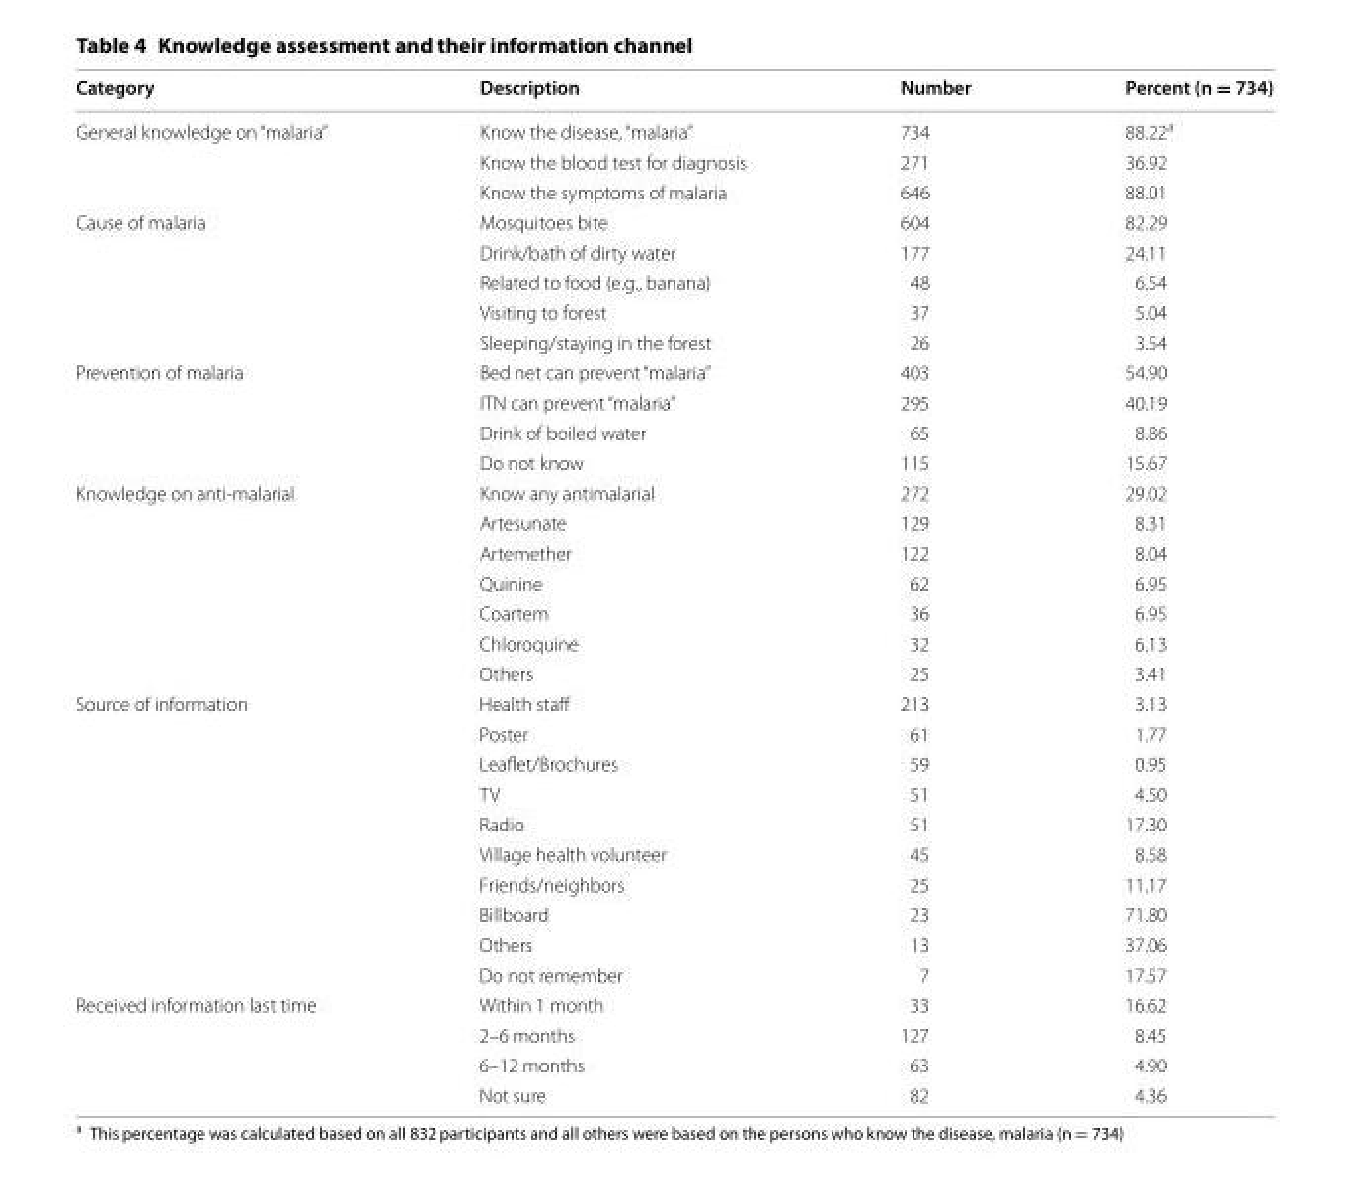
<table><thead><tr><td>Category</td><td>Description</td><td>Number</td><td>Percent (n = 734)</td></tr></thead><tbody><tr><td rowspan="3">General knowledge on “malaria”</td><td>Know the disease, “malaria”</td><td>734</td><td>88.22<sup>a</sup></td></tr><tr><td>Know the blood test for diagnosis</td><td>271</td><td>36.92</td></tr><tr><td>Know the symptoms of malaria</td><td>646</td><td>88.01</td></tr><tr><td rowspan="5">Cause of malaria</td><td>Mosquitoes bite</td><td>604</td><td>82.29</td></tr><tr><td>Drink/bath of dirty water</td><td>177</td><td>24.11</td></tr><tr><td>Related to food (e.g., banana)</td><td>48</td><td>6.54</td></tr><tr><td>Visiting to forest</td><td>37</td><td>5.04</td></tr><tr><td>Sleeping/staying in the forest</td><td>26</td><td>3.54</td></tr><tr><td rowspan="4">Prevention of malaria</td><td>Bed net can prevent “malaria”</td><td>403</td><td>54.90</td></tr><tr><td>ITN can prevent “malaria”</td><td>295</td><td>40.19</td></tr><tr><td>Drink of boiled water</td><td>65</td><td>8.86</td></tr><tr><td>Do not know</td><td>115</td><td>15.67</td></tr><tr><td rowspan="7">Knowledge on anti-malarial</td><td>Know any antimalarial</td><td>272</td><td>29.02</td></tr><tr><td>Artesunate</td><td>129</td><td>8.31</td></tr><tr><td>Artemether</td><td>122</td><td>8.04</td></tr><tr><td>Quinine</td><td>62</td><td>6.95</td></tr><tr><td>Coartem</td><td>36</td><td>6.95</td></tr><tr><td>Chloroquine</td><td>32</td><td>6.13</td></tr><tr><td>Others</td><td>25</td><td>3.41</td></tr><tr><td rowspan="10">Source of information</td><td>Health staff</td><td>213</td><td>3.13</td></tr><tr><td>Poster</td><td>61</td><td>1.77</td></tr><tr><td>Leaflet/Brochures</td><td>59</td><td>0.95</td></tr><tr><td>TV</td><td>51</td><td>4.50</td></tr><tr><td>Radio</td><td>51</td><td>17.30</td></tr><tr><td>Village health volunteer</td><td>45</td><td>8.58</td></tr><tr><td>Friends/neighbors</td><td>25</td><td>11.17</td></tr><tr><td>Billboard</td><td>23</td><td>71.80</td></tr><tr><td>Others</td><td>13</td><td>37.06</td></tr><tr><td>Do not remember</td><td>7</td><td>17.57</td></tr><tr><td rowspan="4">Received information last time</td><td>Within 1 month</td><td>33</td><td>16.62</td></tr><tr><td>2–6 months</td><td>127</td><td>8.45</td></tr><tr><td>6–12 months</td><td>63</td><td>4.90</td></tr><tr><td>Not sure</td><td>82</td><td>4.36</td></tr></tbody></table>